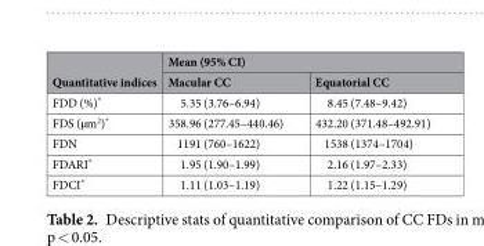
<table><thead><tr><td rowspan="2">Quantitative indices</td><td colspan="2">Mean (95% CI)</td></tr><tr><td>Macular CC</td><td>Equatorial CC</td></tr></thead><tbody><tr><td>FDD (%)*</td><td>5.35 (3.76–6.94)</td><td>8.45 (7.48–9.42)</td></tr><tr><td>FDS (µm<sup>2</sup>)*</td><td>358.96 (277.45–440.46)</td><td>432.20 (371.48–492.91)</td></tr><tr><td>FDN</td><td>1191 (760–1622)</td><td>1538 (1374–1704)</td></tr><tr><td>FDARI*</td><td>1.95 (1.90–1.99)</td><td>2.16 (1.97–2.33)</td></tr><tr><td>FDCI*</td><td>1.11 (1.03–1.19)</td><td>1.22 (1.15–1.29)</td></tr></tbody></table>